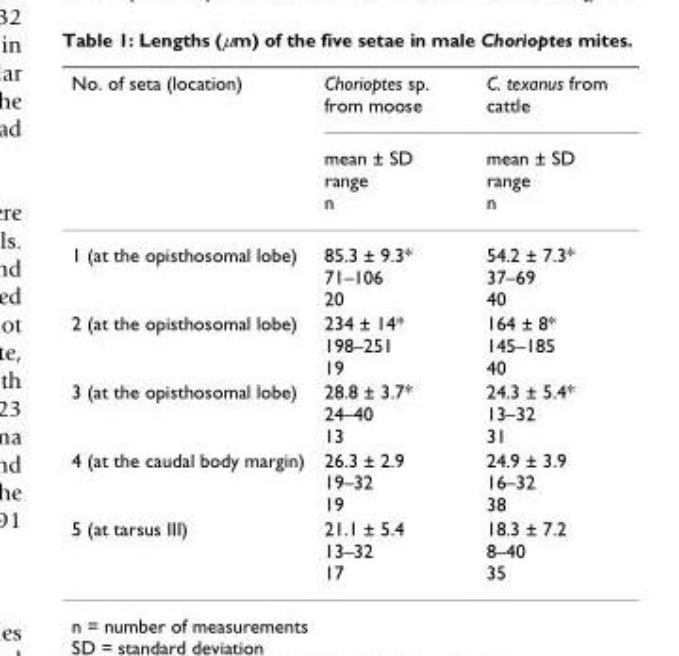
<table><thead><tr><td rowspan="2">No. of seta (location)</td><td rowspan="2">Chorioptes sp. from moose mean ± SD range n</td><td rowspan="2">C. texanus from cattle mean ± SD range n</td></tr><tr></tr></thead><tbody><tr><td>1 (at the opisthosomal lobe)</td><td>85.3 ± 9.3* 71–106 20</td><td>54.2 ± 7.3* 37–69 40</td></tr><tr><td>2 (at the opisthosomal lobe)</td><td>234 ± 14* 198–251 19</td><td>164 ± 8* 145–185 40</td></tr><tr><td>3 (at the opisthosomal lobe)</td><td>28.8 ± 3.7* 24–40 13</td><td>24.3 ± 5.4* 13–32 31</td></tr><tr><td>4 (at the caudal body margin)</td><td>26.3 ± 2.9 19–32 19</td><td>24.9 ± 3.9 16–32 38</td></tr><tr><td>5 (at tarsus III)</td><td>21.1 ± 5.4 13–32 17</td><td>18.3 ± 7.2 8–40 35</td></tr></tbody></table>